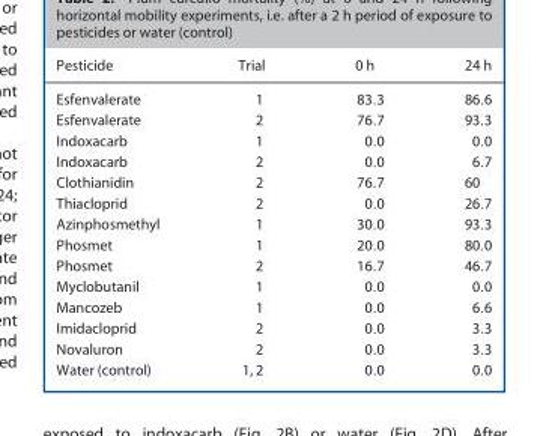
<table><thead><tr><td>Pesticide</td><td>Trial</td><td>0 h</td><td>24 h</td></tr></thead><tbody><tr><td>Esfenvalerate</td><td>1</td><td>83.3</td><td>86.6</td></tr><tr><td>Esfenvalerate</td><td>2</td><td>76.7</td><td>93.3</td></tr><tr><td>Indoxacarb</td><td>1</td><td>0.0</td><td>0.0</td></tr><tr><td>Indoxacarb</td><td>2</td><td>0.0</td><td>6.7</td></tr><tr><td>Clothianidin</td><td>2</td><td>76.7</td><td>60</td></tr><tr><td>Thiacloprid</td><td>2</td><td>0.0</td><td>26.7</td></tr><tr><td>Azinphosmethyl</td><td>1</td><td>30.0</td><td>93.3</td></tr><tr><td>Phosmet</td><td>1</td><td>20.0</td><td>80.0</td></tr><tr><td>Phosmet</td><td>2</td><td>16.7</td><td>46.7</td></tr><tr><td>Myclobutanil</td><td>1</td><td>0.0</td><td>0.0</td></tr><tr><td>Mancozeb</td><td>1</td><td>0.0</td><td>6.6</td></tr><tr><td>Imidacloprid</td><td>2</td><td>0.0</td><td>3.3</td></tr><tr><td>Novaluron</td><td>2</td><td>0.0</td><td>3.3</td></tr><tr><td>Water (control)</td><td>1, 2</td><td>0.0</td><td>0.0</td></tr></tbody></table>